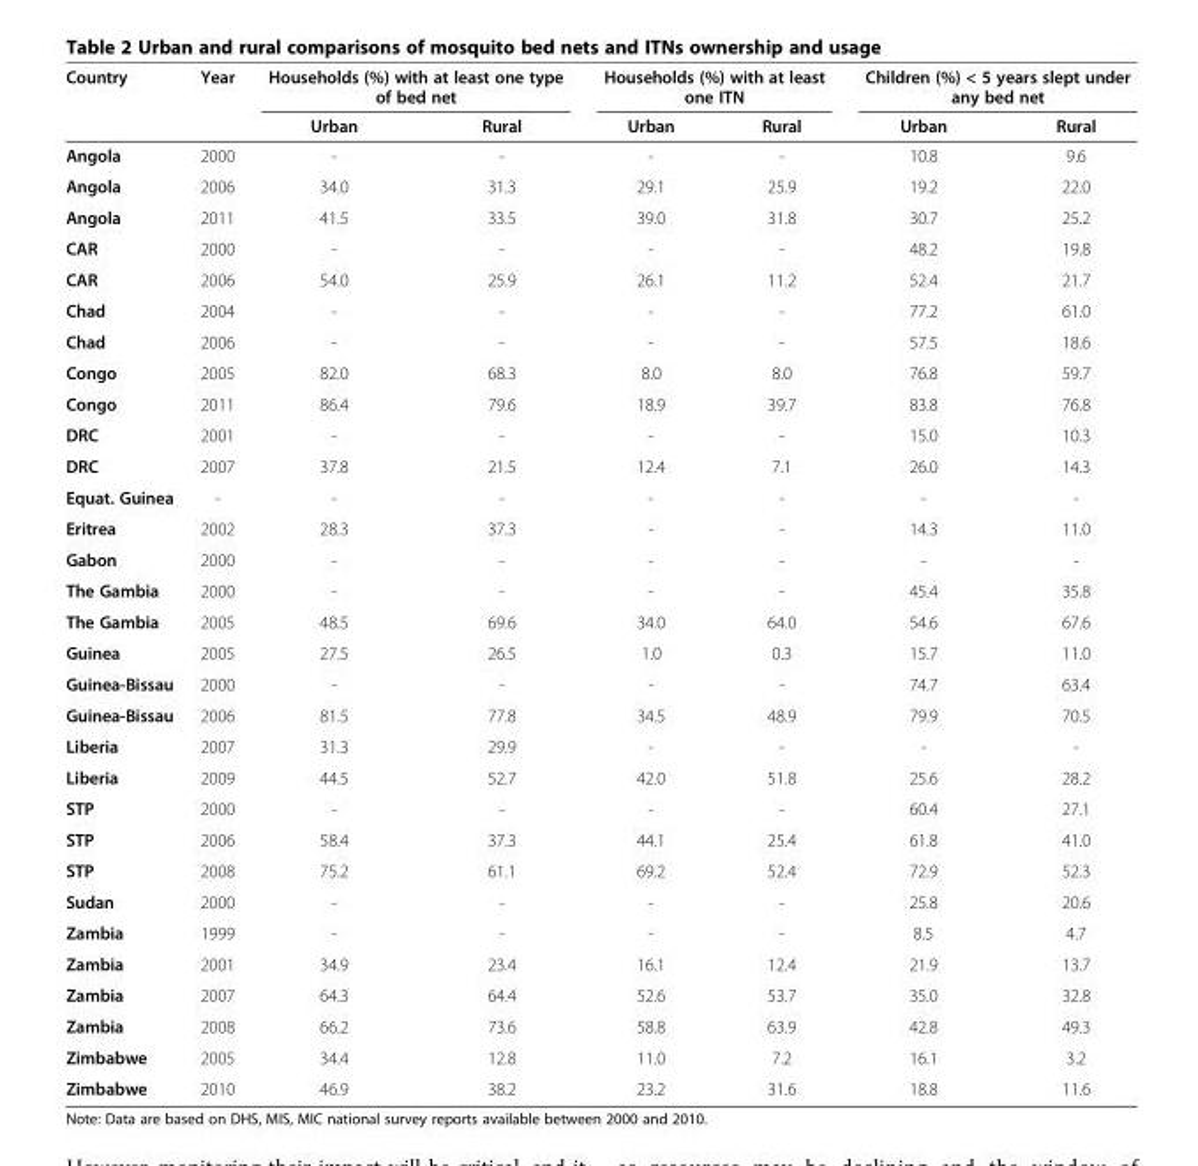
<table><thead><tr><td rowspan="2">Country</td><td rowspan="2">Year</td><td colspan="2">Households (%) with at least one type of bed net</td><td colspan="2">Households (%) with at least one ITN</td><td colspan="2">Children (%) &lt; 5 years slept under any bed net</td></tr><tr><td>Urban</td><td>Rural</td><td>Urban</td><td>Rural</td><td>Urban</td><td>Rural</td></tr></thead><tbody><tr><td>Angola</td><td>2000</td><td>-</td><td>-</td><td>-</td><td>-</td><td>10.8</td><td>9.6</td></tr><tr><td>Angola</td><td>2006</td><td>34.0</td><td>31.3</td><td>29.1</td><td>25.9</td><td>19.2</td><td>22.0</td></tr><tr><td>Angola</td><td>2011</td><td>41.5</td><td>33.5</td><td>39.0</td><td>31.8</td><td>30.7</td><td>25.2</td></tr><tr><td>CAR</td><td>2000</td><td>-</td><td>-</td><td>-</td><td>-</td><td>48.2</td><td>19.8</td></tr><tr><td>CAR</td><td>2006</td><td>54.0</td><td>25.9</td><td>26.1</td><td>11.2</td><td>52.4</td><td>21.7</td></tr><tr><td>Chad</td><td>2004</td><td>-</td><td>-</td><td>-</td><td>-</td><td>77.2</td><td>61.0</td></tr><tr><td>Chad</td><td>2006</td><td>-</td><td>-</td><td>-</td><td>-</td><td>57.5</td><td>18.6</td></tr><tr><td>Congo</td><td>2005</td><td>82.0</td><td>68.3</td><td>8.0</td><td>8.0</td><td>76.8</td><td>59.7</td></tr><tr><td>Congo</td><td>2011</td><td>86.4</td><td>79.6</td><td>18.9</td><td>39.7</td><td>83.8</td><td>76.8</td></tr><tr><td>DRC</td><td>2001</td><td>-</td><td>-</td><td>-</td><td>-</td><td>15.0</td><td>10.3</td></tr><tr><td>DRC</td><td>2007</td><td>37.8</td><td>21.5</td><td>12.4</td><td>7.1</td><td>26.0</td><td>14.3</td></tr><tr><td>Equat. Guinea</td><td>-</td><td>-</td><td>-</td><td>-</td><td>-</td><td>-</td><td>-</td></tr><tr><td>Eritrea</td><td>2002</td><td>28.3</td><td>37.3</td><td>-</td><td>-</td><td>14.3</td><td>11.0</td></tr><tr><td>Gabon</td><td>2000</td><td>-</td><td>-</td><td>-</td><td>-</td><td>-</td><td>-</td></tr><tr><td>The Gambia</td><td>2000</td><td>-</td><td>-</td><td>-</td><td>-</td><td>45.4</td><td>35.8</td></tr><tr><td>The Gambia</td><td>2005</td><td>48.5</td><td>69.6</td><td>34.0</td><td>64.0</td><td>54.6</td><td>67.6</td></tr><tr><td>Guinea</td><td>2005</td><td>27.5</td><td>26.5</td><td>1.0</td><td>0.3</td><td>15.7</td><td>11.0</td></tr><tr><td>Guinea-Bissau</td><td>2000</td><td>-</td><td>-</td><td>-</td><td>-</td><td>74.7</td><td>63.4</td></tr><tr><td>Guinea-Bissau</td><td>2006</td><td>81.5</td><td>77.8</td><td>34.5</td><td>48.9</td><td>79.9</td><td>70.5</td></tr><tr><td>Liberia</td><td>2007</td><td>31.3</td><td>29.9</td><td>-</td><td>-</td><td>-</td><td>-</td></tr><tr><td>Liberia</td><td>2009</td><td>44.5</td><td>52.7</td><td>42.0</td><td>51.8</td><td>25.6</td><td>28.2</td></tr><tr><td>STP</td><td>2000</td><td>-</td><td>-</td><td>-</td><td>-</td><td>60.4</td><td>27.1</td></tr><tr><td>STP</td><td>2006</td><td>58.4</td><td>37.3</td><td>44.1</td><td>25.4</td><td>61.8</td><td>41.0</td></tr><tr><td>STP</td><td>2008</td><td>75.2</td><td>61.1</td><td>69.2</td><td>52.4</td><td>72.9</td><td>52.3</td></tr><tr><td>Sudan</td><td>2000</td><td>-</td><td>-</td><td>-</td><td>-</td><td>25.8</td><td>20.6</td></tr><tr><td>Zambia</td><td>1999</td><td>-</td><td>-</td><td>-</td><td>-</td><td>8.5</td><td>4.7</td></tr><tr><td>Zambia</td><td>2001</td><td>34.9</td><td>23.4</td><td>16.1</td><td>12.4</td><td>21.9</td><td>13.7</td></tr><tr><td>Zambia</td><td>2007</td><td>64.3</td><td>64.4</td><td>52.6</td><td>53.7</td><td>35.0</td><td>32.8</td></tr><tr><td>Zambia</td><td>2008</td><td>66.2</td><td>73.6</td><td>58.8</td><td>63.9</td><td>42.8</td><td>49.3</td></tr><tr><td>Zimbabwe</td><td>2005</td><td>34.4</td><td>12.8</td><td>11.0</td><td>7.2</td><td>16.1</td><td>3.2</td></tr><tr><td>Zimbabwe</td><td>2010</td><td>46.9</td><td>38.2</td><td>23.2</td><td>31.6</td><td>18.8</td><td>11.6</td></tr></tbody></table>